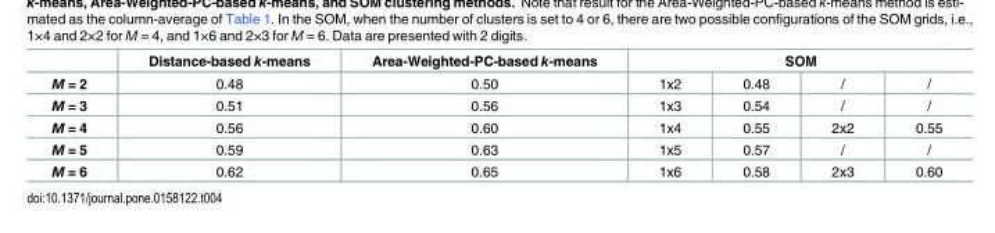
<table><thead><tr><td rowspan="2">M = 2</td><td rowspan="2">Distance-based k-means 0.48</td><td rowspan="2">Area-Weighted-PC-based k-means 0.50</td><td colspan="4">SOM</td></tr><tr><td>1x2</td><td>0.48</td><td>/</td><td>/</td></tr></thead><tbody><tr><td>M = 3</td><td>0.51</td><td>0.56</td><td>1x3</td><td>0.54</td><td>/</td><td>/</td></tr><tr><td>M = 4</td><td>0.56</td><td>0.60</td><td>1x4</td><td>0.55</td><td>2x2</td><td>0.55</td></tr><tr><td>M = 5</td><td>0.59</td><td>0.63</td><td>1x5</td><td>0.57</td><td>/</td><td>/</td></tr><tr><td>M = 6</td><td>0.62</td><td>0.65</td><td>1x6</td><td>0.58</td><td>2x3</td><td>0.60</td></tr></tbody></table>